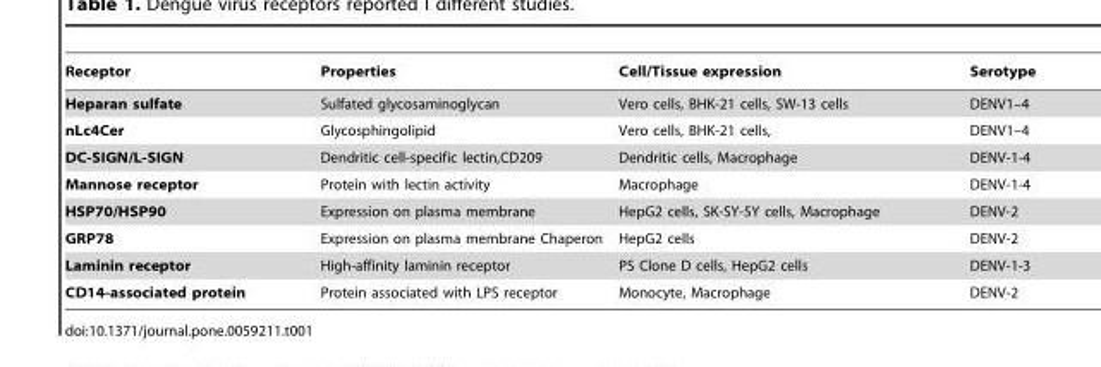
<table><thead><tr><td>Receptor</td><td>Properties</td><td>Cell/Tissue expression</td><td>Serotype</td></tr></thead><tbody><tr><td>Heparan sulfate</td><td>Sulfated glycosaminoglycan</td><td>Vero cells, BHK-21 cells, SW-13 cells</td><td>DENV1–4</td></tr><tr><td>nLc4Cer</td><td>Glycosphingolipid</td><td>Vero cells, BHK-21 cells,</td><td>DENV1–4</td></tr><tr><td>DC-SIGN/L-SIGN</td><td>Dendritic cell-specific lectin,CD209</td><td>Dendritic cells, Macrophage</td><td>DENV-1-4</td></tr><tr><td>Mannose receptor</td><td>Protein with lectin activity</td><td>Macrophage</td><td>DENV-1-4</td></tr><tr><td>HSP70/HSP90</td><td>Expression on plasma membrane</td><td>HepG2 cells, SK-SY-5Y cells, Macrophage</td><td>DENV-2</td></tr><tr><td>GRP78</td><td>Expression on plasma membrane Chaperon</td><td>HepG2 cells</td><td>DENV-2</td></tr><tr><td>Laminin receptor</td><td>High-affinity laminin receptor</td><td>PS Clone D cells, HepG2 cells</td><td>DENV-1-3</td></tr><tr><td>CD14-associated protein</td><td>Protein associated with LPS receptor</td><td>Monocyte, Macrophage</td><td>DENV-2</td></tr></tbody></table>